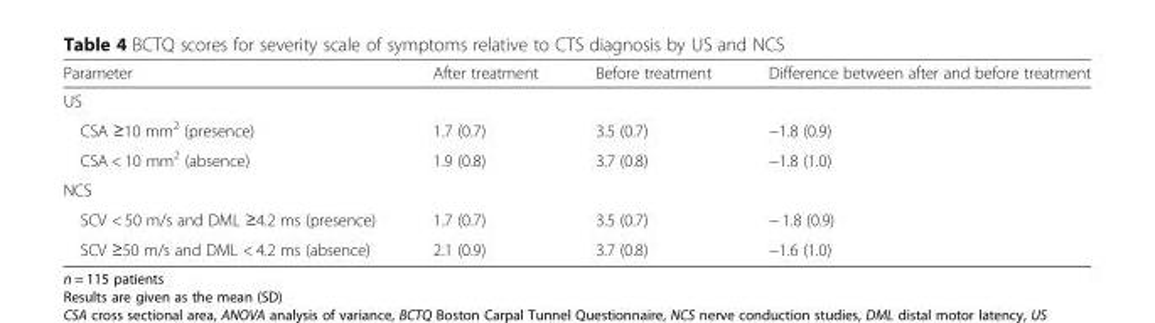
<table><thead><tr><td>Parameter</td><td>After treatment</td><td>Before treatment</td><td>Difference between after and before treatment</td></tr></thead><tbody><tr><td colspan="4">US</td></tr><tr><td>CSA ≥10 mm<sup>2</sup> (presence)</td><td>1.7 (0.7)</td><td>3.5 (0.7)</td><td>−1.8 (0.9)</td></tr><tr><td>CSA &lt; 10 mm<sup>2</sup> (absence)</td><td>1.9 (0.8)</td><td>3.7 (0.8)</td><td>−1.8 (1.0)</td></tr><tr><td colspan="4">NCS</td></tr><tr><td>SCV &lt; 50 m/s and DML ≥4.2 ms (presence)</td><td>1.7 (0.7)</td><td>3.5 (0.7)</td><td>− 1.8 (0.9)</td></tr><tr><td>SCV ≥50 m/s and DML &lt; 4.2 ms (absence)</td><td>2.1 (0.9)</td><td>3.7 (0.8)</td><td>−1.6 (1.0)</td></tr></tbody></table>